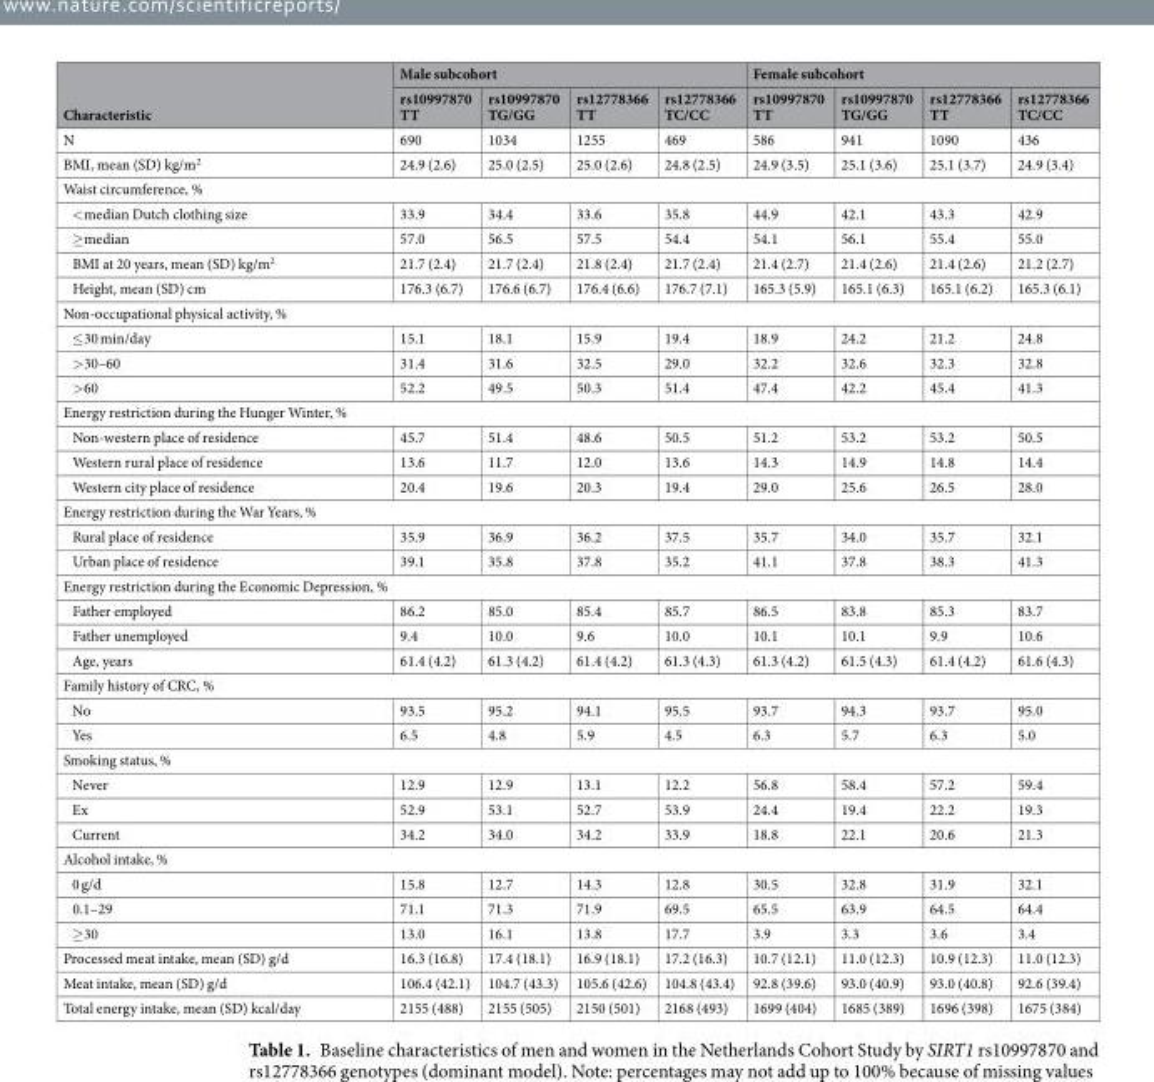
<table><thead><tr><td rowspan="2">Characteristic</td><td colspan="4">Male subcohort</td><td colspan="4">Female subcohort</td></tr><tr><td>rs10997870 TT</td><td>rs10997870 TG/GG</td><td>rs12778366 TT</td><td>rs12778366 TC/CC</td><td>rs10997870 TT</td><td>rs10997870 TG/GG</td><td>rs12778366 TT</td><td>rs12778366 TC/CC</td></tr></thead><tbody><tr><td>N</td><td>690</td><td>1034</td><td>1255</td><td>469</td><td>586</td><td>941</td><td>1090</td><td>436</td></tr><tr><td>BMI, mean (SD) kg/m<sup>2</sup></td><td>24.9 (2.6)</td><td>25.0 (2.5)</td><td>25.0 (2.6)</td><td>24.8 (2.5)</td><td>24.9 (3.5)</td><td>25.1 (3.6)</td><td>25.1 (3.7)</td><td>24.9 (3.4)</td></tr><tr><td colspan="9">Waist circumference, %</td></tr><tr><td>&lt;median Dutch clothing size</td><td>33.9</td><td>34.4</td><td>33.6</td><td>35.8</td><td>44.9</td><td>42.1</td><td>43.3</td><td>42.9</td></tr><tr><td>≥median</td><td>57.0</td><td>56.5</td><td>57.5</td><td>54.4</td><td>54.1</td><td>56.1</td><td>55.4</td><td>55.0</td></tr><tr><td>BMI at 20 years, mean (SD) kg/m<sup>2</sup></td><td>21.7 (2.4)</td><td>21.7 (2.4)</td><td>21.8 (2.4)</td><td>21.7 (2.4)</td><td>21.4 (2.7)</td><td>21.4 (2.6)</td><td>21.4 (2.6)</td><td>21.2 (2.7)</td></tr><tr><td>Height, mean (SD) cm</td><td>176.3 (6.7)</td><td>176.6 (6.7)</td><td>176.4 (6.6)</td><td>176.7 (7.1)</td><td>165.3 (5.9)</td><td>165.1 (6.3)</td><td>165.1 (6.2)</td><td>165.3 (6.1)</td></tr><tr><td colspan="9">Non-occupational physical activity, %</td></tr><tr><td>≤30 min/day</td><td>15.1</td><td>18.1</td><td>15.9</td><td>19.4</td><td>18.9</td><td>24.2</td><td>21.2</td><td>24.8</td></tr><tr><td>&gt;30–60</td><td>31.4</td><td>31.6</td><td>32.5</td><td>29.0</td><td>32.2</td><td>32.6</td><td>32.3</td><td>32.8</td></tr><tr><td>&gt;60</td><td>52.2</td><td>49.5</td><td>50.3</td><td>51.4</td><td>47.4</td><td>42.2</td><td>45.4</td><td>41.3</td></tr><tr><td colspan="9">Energy restriction during the Hunger Winter, %</td></tr><tr><td>Non-western place of residence</td><td>45.7</td><td>51.4</td><td>48.6</td><td>50.5</td><td>51.2</td><td>53.2</td><td>53.2</td><td>50.5</td></tr><tr><td>Western rural place of residence</td><td>13.6</td><td>11.7</td><td>12.0</td><td>13.6</td><td>14.3</td><td>14.9</td><td>14.8</td><td>14.4</td></tr><tr><td>Western city place of residence</td><td>20.4</td><td>19.6</td><td>20.3</td><td>19.4</td><td>29.0</td><td>25.6</td><td>26.5</td><td>28.0</td></tr><tr><td colspan="9">Energy restriction during the War Years, %</td></tr><tr><td>Rural place of residence</td><td>35.9</td><td>36.9</td><td>36.2</td><td>37.5</td><td>35.7</td><td>34.0</td><td>35.7</td><td>32.1</td></tr><tr><td>Urban place of residence</td><td>39.1</td><td>35.8</td><td>37.8</td><td>35.2</td><td>41.1</td><td>37.8</td><td>38.3</td><td>41.3</td></tr><tr><td colspan="9">Energy restriction during the Economic Depression, %</td></tr><tr><td>Father employed</td><td>86.2</td><td>85.0</td><td>85.4</td><td>85.7</td><td>86.5</td><td>83.8</td><td>85.3</td><td>83.7</td></tr><tr><td>Father unemployed</td><td>9.4</td><td>10.0</td><td>9.6</td><td>10.0</td><td>10.1</td><td>10.1</td><td>9.9</td><td>10.6</td></tr><tr><td>Age, years</td><td>61.4 (4.2)</td><td>61.3 (4.2)</td><td>61.4 (4.2)</td><td>61.3 (4.3)</td><td>61.3 (4.2)</td><td>61.5 (4.3)</td><td>61.4 (4.2)</td><td>61.6 (4.3)</td></tr><tr><td colspan="9">Family history of CRC, %</td></tr><tr><td>No</td><td>93.5</td><td>95.2</td><td>94.1</td><td>95.5</td><td>93.7</td><td>94.3</td><td>93.7</td><td>95.0</td></tr><tr><td>Yes</td><td>6.5</td><td>4.8</td><td>5.9</td><td>4.5</td><td>6.3</td><td>5.7</td><td>6.3</td><td>5.0</td></tr><tr><td colspan="9">Smoking status, %</td></tr><tr><td>Never</td><td>12.9</td><td>12.9</td><td>13.1</td><td>12.2</td><td>56.8</td><td>58.4</td><td>57.2</td><td>59.4</td></tr><tr><td>Ex</td><td>52.9</td><td>53.1</td><td>52.7</td><td>53.9</td><td>24.4</td><td>19.4</td><td>22.2</td><td>19.3</td></tr><tr><td>Current</td><td>34.2</td><td>34.0</td><td>34.2</td><td>33.9</td><td>18.8</td><td>22.1</td><td>20.6</td><td>21.3</td></tr><tr><td colspan="9">Alcohol intake, %</td></tr><tr><td>0 g/d</td><td>15.8</td><td>12.7</td><td>14.3</td><td>12.8</td><td>30.5</td><td>32.8</td><td>31.9</td><td>32.1</td></tr><tr><td>0.1–29</td><td>71.1</td><td>71.3</td><td>71.9</td><td>69.5</td><td>65.5</td><td>63.9</td><td>64.5</td><td>64.4</td></tr><tr><td>≥30</td><td>13.0</td><td>16.1</td><td>13.8</td><td>17.7</td><td>3.9</td><td>3.3</td><td>3.6</td><td>3.4</td></tr><tr><td>Processed meat intake, mean (SD) g/d</td><td>16.3 (16.8)</td><td>17.4 (18.1)</td><td>16.9 (18.1)</td><td>17.2 (16.3)</td><td>10.7 (12.1)</td><td>11.0 (12.3)</td><td>10.9 (12.3)</td><td>11.0 (12.3)</td></tr><tr><td>Meat intake, mean (SD) g/d</td><td>106.4 (42.1)</td><td>104.7 (43.3)</td><td>105.6 (42.6)</td><td>104.8 (43.4)</td><td>92.8 (39.6)</td><td>93.0 (40.9)</td><td>93.0 (40.8)</td><td>92.6 (39.4)</td></tr><tr><td>Total energy intake, mean (SD) kcal/day</td><td>2155 (488)</td><td>2155 (505)</td><td>2150 (501)</td><td>2168 (493)</td><td>1699 (404)</td><td>1685 (389)</td><td>1696 (398)</td><td>1675 (384)</td></tr></tbody></table>